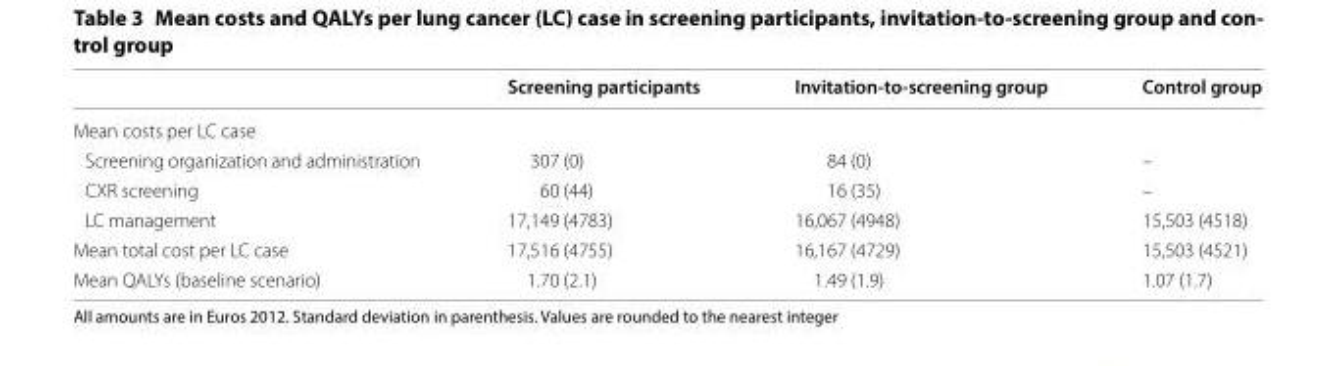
<table><thead><tr><td></td><td>Screening participants</td><td>Invitation‑to‑screening group</td><td>Control group</td></tr></thead><tbody><tr><td colspan="4">Mean costs per LC case</td></tr><tr><td>Screening organization and administration</td><td>307 (0)</td><td>84 (0)</td><td>–</td></tr><tr><td>CXR screening</td><td>60 (44)</td><td>16 (35)</td><td>–</td></tr><tr><td>LC management</td><td>17,149 (4783)</td><td>16,067 (4948)</td><td>15,503 (4518)</td></tr><tr><td>Mean total cost per LC case</td><td>17,516 (4755)</td><td>16,167 (4729)</td><td>15,503 (4521)</td></tr><tr><td>Mean QALYs (baseline scenario)</td><td>1.70 (2.1)</td><td>1.49 (1.9)</td><td>1.07 (1.7)</td></tr></tbody></table>